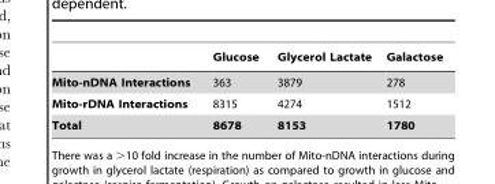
<table><thead><tr><td></td><td>Glucose</td><td>Glycerol Lactate</td><td>Galactose</td></tr></thead><tbody><tr><td>Mito-nDNA Interactions</td><td>363</td><td>3879</td><td>278</td></tr><tr><td>Mito-rDNA Interactions</td><td>8315</td><td>4274</td><td>1512</td></tr><tr><td>Total</td><td>8678</td><td>8153</td><td>1780</td></tr></tbody></table>